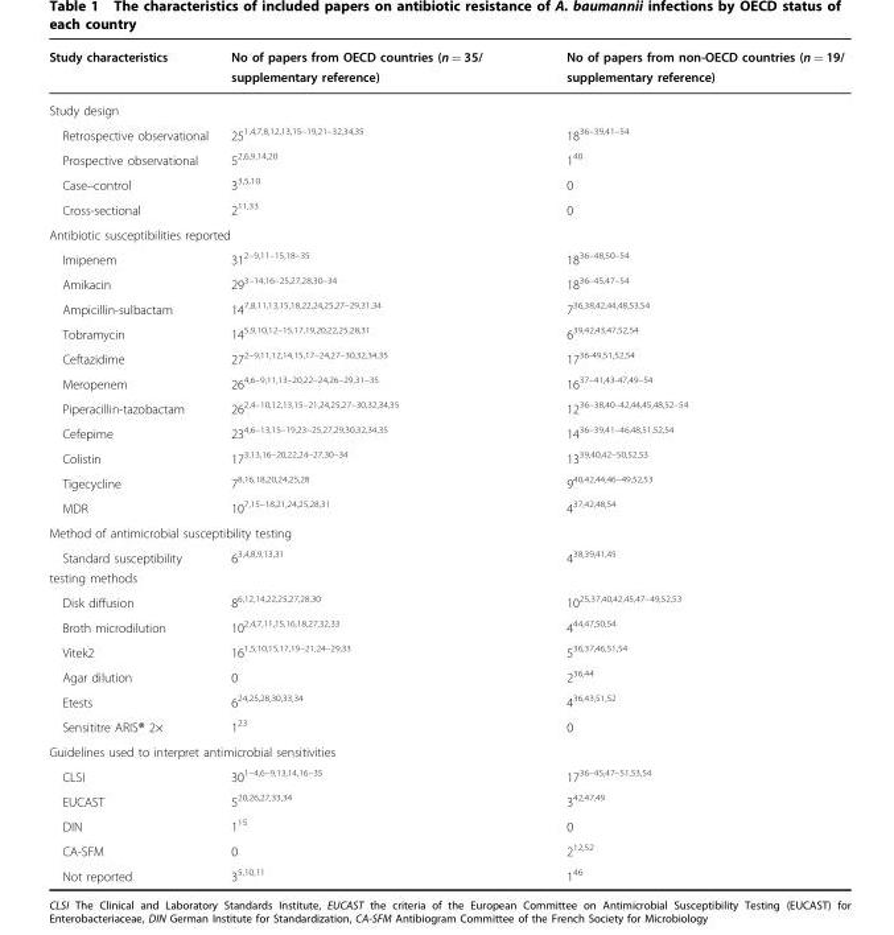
<table><thead><tr><td>Study characteristics</td><td>No of papers from OECD countries (n = 35/ supplementary reference)</td><td>No of papers from non-OECD countries (n = 19/ supplementary reference)</td></tr></thead><tbody><tr><td colspan="3">Study design</td></tr><tr><td>Retrospective observational</td><td>25<sup>1,4,7,8,12,13,15–19,21–32,34,35</sup></td><td>18<sup>36–39,41–54</sup></td></tr><tr><td>Prospective observational</td><td>5<sup>2,6,9,14,20</sup></td><td>1<sup>40</sup></td></tr><tr><td>Case–control</td><td>3<sup>3,5,10</sup></td><td>0</td></tr><tr><td>Cross-sectional</td><td>2<sup>11,33</sup></td><td>0</td></tr><tr><td colspan="3">Antibiotic susceptibilities reported</td></tr><tr><td>Imipenem</td><td>31<sup>2–9,11–15,18–35</sup></td><td>18<sup>36–48,50–54</sup></td></tr><tr><td>Amikacin</td><td>29<sup>3–14,16–25,27,28,30–34</sup></td><td>18<sup>36–45,47–54</sup></td></tr><tr><td>Ampicillin-sulbactam</td><td>14<sup>7,8,11,13,15,18,22,24,25,27–29,31,34</sup></td><td>7<sup>36,38,42,44,48,53,54</sup></td></tr><tr><td>Tobramycin</td><td>14<sup>5,9,10,12–15,17,19,20,22,25,28,31</sup></td><td>6<sup>39,42,43,47,52,54</sup></td></tr><tr><td>Ceftazidime</td><td>27<sup>2–9,11,12,14,15,17–24,27–30,32,34,35</sup></td><td>17<sup>36-49,51,52,54</sup></td></tr><tr><td>Meropenem</td><td>26<sup>4,6–9,11,13–20,22–24,26–29,31–35</sup></td><td>16<sup>37–41,43-47,49–54</sup></td></tr><tr><td>Piperacillin-tazobactam</td><td>26<sup>2,4–10,12,13,15–21,24,25,27–30,32,34,35</sup></td><td>12<sup>36–38,40–42,44,45,48,52–54</sup></td></tr><tr><td>Cefepime</td><td>23<sup>4,6–13,15–19,23–25,27,29,30,32,34,35</sup></td><td>14<sup>36–39,41–46,48,51,52,54</sup></td></tr><tr><td>Colistin</td><td>17<sup>3,13,16–20,22,24–27,30–34</sup></td><td>13<sup>39,40,42–50,52,53</sup></td></tr><tr><td>Tigecycline</td><td>7<sup>8,16,18,20,24,25,28</sup></td><td>9<sup>40,42,44,46–49,52,53</sup></td></tr><tr><td>MDR</td><td>10<sup>7,15–18,21,24,25,28,31</sup></td><td>4<sup>37,42,48,54</sup></td></tr><tr><td colspan="3">Method of antimicrobial susceptibility testing</td></tr><tr><td>Standard susceptibility testing methods</td><td>6<sup>3,4,8,9,13,31</sup></td><td>4<sup>38,39,41,45</sup></td></tr><tr><td>Disk diffusion</td><td>8<sup>6,12,14,22,25,27,28,30</sup></td><td>10<sup>25,37,40,42,45,47–49,52,53</sup></td></tr><tr><td>Broth microdilution</td><td>10<sup>2,4,7,11,15,16,18,27,32,33</sup></td><td>4<sup>44,47,50,54</sup></td></tr><tr><td>Vitek2</td><td>16<sup>1,5,10,15,17,19–21,24–29,33</sup></td><td>5<sup>36,37,46,51,54</sup></td></tr><tr><td>Agar dilution</td><td>0</td><td>2<sup>36,44</sup></td></tr><tr><td>Etests</td><td>6<sup>24,25,28,30,33,34</sup></td><td>4<sup>36,43,51,52</sup></td></tr><tr><td>Sensititre ARIS® 2×</td><td>1<sup>23</sup></td><td>0</td></tr><tr><td colspan="3">Guidelines used to interpret antimicrobial sensitivities</td></tr><tr><td>CLSI</td><td>30<sup>1–4,6–9,13,14,16–35</sup></td><td>17<sup>36–45,47–51,53,54</sup></td></tr><tr><td>EUCAST</td><td>5<sup>20,26,27,33,34</sup></td><td>3<sup>42,47,49</sup></td></tr><tr><td>DIN</td><td>1<sup>15</sup></td><td>0</td></tr><tr><td>CA-SFM</td><td>0</td><td>2<sup>12,52</sup></td></tr><tr><td>Not reported</td><td>3<sup>5,10,11</sup></td><td>1<sup>46</sup></td></tr></tbody></table>